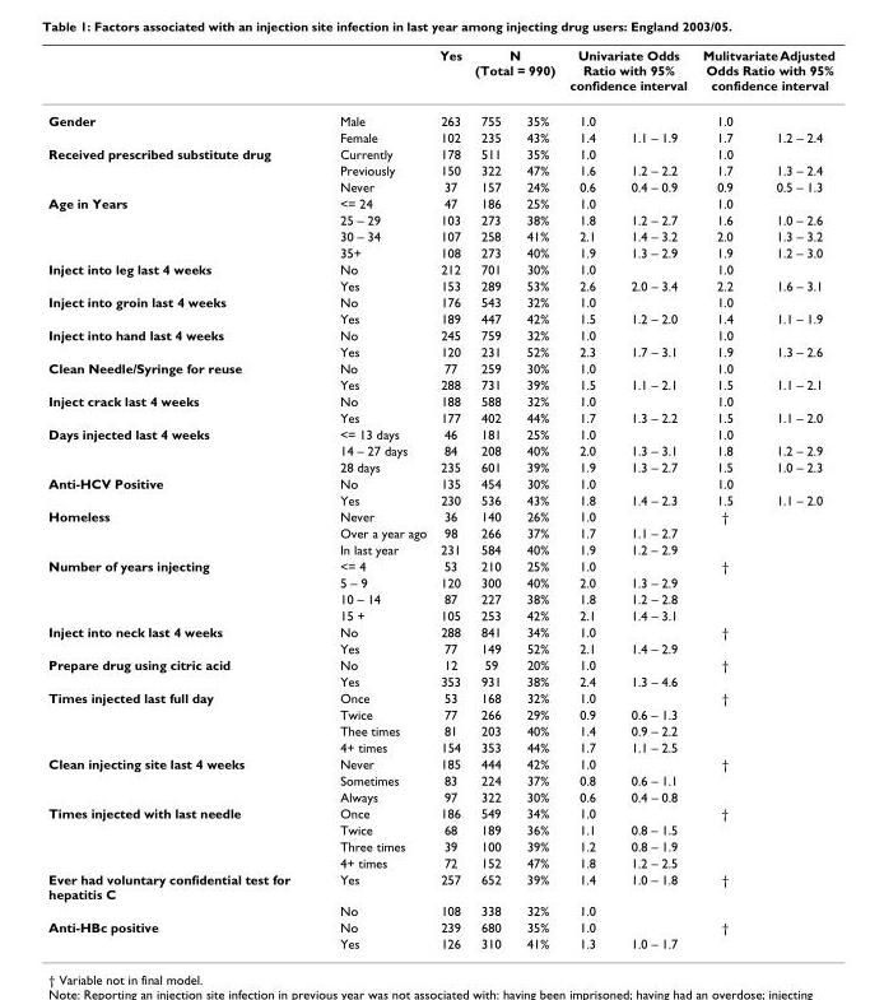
<table><thead><tr><td rowspan="2">Gender</td><td rowspan="2">Male</td><td rowspan="2">Yes 263</td><td colspan="2">N (Total = 990)</td><td colspan="2">Univariate Odds Ratio with 95% confidence interval</td><td colspan="2">Mulitvariate Adjusted Odds Ratio with 95% confidence interval</td></tr><tr><td>755</td><td>35%</td><td>1.0</td><td></td><td>1.0</td><td></td></tr></thead><tbody><tr><td></td><td>Female</td><td>102</td><td>235</td><td>43%</td><td>1.4</td><td>1.1 – 1.9</td><td>1.7</td><td>1.2 – 2.4</td></tr><tr><td rowspan="3">Received prescribed substitute drug</td><td>Currently</td><td>178</td><td>511</td><td>35%</td><td>1.0</td><td></td><td>1.0</td><td></td></tr><tr><td>Previously</td><td>150</td><td>322</td><td>47%</td><td>1.6</td><td>1.2 – 2.2</td><td>1.7</td><td>1.3 – 2.4</td></tr><tr><td>Never</td><td>37</td><td>157</td><td>24%</td><td>0.6</td><td>0.4 – 0.9</td><td>0.9</td><td>0.5 – 1.3</td></tr><tr><td rowspan="4">Age in Years</td><td>&lt;= 24</td><td>47</td><td>186</td><td>25%</td><td>1.0</td><td></td><td>1.0</td><td></td></tr><tr><td>25 – 29</td><td>103</td><td>273</td><td>38%</td><td>1.8</td><td>1.2 – 2.7</td><td>1.6</td><td>1.0 – 2.6</td></tr><tr><td>30 – 34</td><td>107</td><td>258</td><td>41%</td><td>2.1</td><td>1.4 – 3.2</td><td>2.0</td><td>1.3 – 3.2</td></tr><tr><td>35+</td><td>108</td><td>273</td><td>40%</td><td>1.9</td><td>1.3 – 2.9</td><td>1.9</td><td>1.2 – 3.0</td></tr><tr><td rowspan="2">Inject into leg last 4 weeks</td><td>No</td><td>212</td><td>701</td><td>30%</td><td>1.0</td><td></td><td>1.0</td><td></td></tr><tr><td>Yes</td><td>153</td><td>289</td><td>53%</td><td>2.6</td><td>2.0 – 3.4</td><td>2.2</td><td>1.6 – 3.1</td></tr><tr><td rowspan="2">Inject into groin last 4 weeks</td><td>No</td><td>176</td><td>543</td><td>32%</td><td>1.0</td><td></td><td>1.0</td><td></td></tr><tr><td>Yes</td><td>189</td><td>447</td><td>42%</td><td>1.5</td><td>1.2 – 2.0</td><td>1.4</td><td>1.1 – 1.9</td></tr><tr><td rowspan="2">Inject into hand last 4 weeks</td><td>No</td><td>245</td><td>759</td><td>32%</td><td>1.0</td><td></td><td>1.0</td><td></td></tr><tr><td>Yes</td><td>120</td><td>231</td><td>52%</td><td>2.3</td><td>1.7 – 3.1</td><td>1.9</td><td>1.3 – 2.6</td></tr><tr><td rowspan="2">Clean Needle/Syringe for reuse</td><td>No</td><td>77</td><td>259</td><td>30%</td><td>1.0</td><td></td><td>1.0</td><td></td></tr><tr><td>Yes</td><td>288</td><td>731</td><td>39%</td><td>1.5</td><td>1.1 – 2.1</td><td>1.5</td><td>1.1 – 2.1</td></tr><tr><td rowspan="2">Inject crack last 4 weeks</td><td>No</td><td>188</td><td>588</td><td>32%</td><td>1.0</td><td></td><td>1.0</td><td></td></tr><tr><td>Yes</td><td>177</td><td>402</td><td>44%</td><td>1.7</td><td>1.3 – 2.2</td><td>1.5</td><td>1.1 – 2.0</td></tr><tr><td rowspan="3">Days injected last 4 weeks</td><td>&lt;= 13 days</td><td>46</td><td>181</td><td>25%</td><td>1.0</td><td></td><td>1.0</td><td></td></tr><tr><td>14 – 27 days</td><td>84</td><td>208</td><td>40%</td><td>2.0</td><td>1.3 – 3.1</td><td>1.8</td><td>1.2 – 2.9</td></tr><tr><td>28 days</td><td>235</td><td>601</td><td>39%</td><td>1.9</td><td>1.3 – 2.7</td><td>1.5</td><td>1.0 – 2.3</td></tr><tr><td rowspan="2">Anti-HCV Positive</td><td>No</td><td>135</td><td>454</td><td>30%</td><td>1.0</td><td></td><td>1.0</td><td></td></tr><tr><td>Yes</td><td>230</td><td>536</td><td>43%</td><td>1.8</td><td>1.4 – 2.3</td><td>1.5</td><td>1.1 – 2.0</td></tr><tr><td rowspan="3">Homeless</td><td>Never</td><td>36</td><td>140</td><td>26%</td><td>1.0</td><td></td><td>†</td><td></td></tr><tr><td>Over a year ago</td><td>98</td><td>266</td><td>37%</td><td>1.7</td><td>1.1 – 2.7</td><td></td><td></td></tr><tr><td>In last year</td><td>231</td><td>584</td><td>40%</td><td>1.9</td><td>1.2 – 2.9</td><td></td><td></td></tr><tr><td rowspan="4">Number of years injecting</td><td>&lt;= 4</td><td>53</td><td>210</td><td>25%</td><td>1.0</td><td></td><td>†</td><td></td></tr><tr><td>5 – 9</td><td>120</td><td>300</td><td>40%</td><td>2.0</td><td>1.3 – 2.9</td><td></td><td></td></tr><tr><td>10 – 14</td><td>87</td><td>227</td><td>38%</td><td>1.8</td><td>1.2 – 2.8</td><td></td><td></td></tr><tr><td>15 +</td><td>105</td><td>253</td><td>42%</td><td>2.1</td><td>1.4 – 3.1</td><td></td><td></td></tr><tr><td rowspan="2">Inject into neck last 4 weeks</td><td>No</td><td>288</td><td>841</td><td>34%</td><td>1.0</td><td></td><td>†</td><td></td></tr><tr><td>Yes</td><td>77</td><td>149</td><td>52%</td><td>2.1</td><td>1.4 – 2.9</td><td></td><td></td></tr><tr><td rowspan="2">Prepare drug using citric acid</td><td>No</td><td>12</td><td>59</td><td>20%</td><td>1.0</td><td></td><td>†</td><td></td></tr><tr><td>Yes</td><td>353</td><td>931</td><td>38%</td><td>2.4</td><td>1.3 – 4.6</td><td></td><td></td></tr><tr><td rowspan="4">Times injected last full day</td><td>Once</td><td>53</td><td>168</td><td>32%</td><td>1.0</td><td></td><td>†</td><td></td></tr><tr><td>Twice</td><td>77</td><td>266</td><td>29%</td><td>0.9</td><td>0.6 – 1.3</td><td></td><td></td></tr><tr><td>Thee times</td><td>81</td><td>203</td><td>40%</td><td>1.4</td><td>0.9 – 2.2</td><td></td><td></td></tr><tr><td>4+ times</td><td>154</td><td>353</td><td>44%</td><td>1.7</td><td>1.1 – 2.5</td><td></td><td></td></tr><tr><td rowspan="3">Clean injecting site last 4 weeks</td><td>Never</td><td>185</td><td>444</td><td>42%</td><td>1.0</td><td></td><td>†</td><td></td></tr><tr><td>Sometimes</td><td>83</td><td>224</td><td>37%</td><td>0.8</td><td>0.6 – 1.1</td><td></td><td></td></tr><tr><td>Always</td><td>97</td><td>322</td><td>30%</td><td>0.6</td><td>0.4 – 0.8</td><td></td><td></td></tr><tr><td rowspan="4">Times injected with last needle</td><td>Once</td><td>186</td><td>549</td><td>34%</td><td>1.0</td><td></td><td>†</td><td></td></tr><tr><td>Twice</td><td>68</td><td>189</td><td>36%</td><td>1.1</td><td>0.8 – 1.5</td><td></td><td></td></tr><tr><td>Three times</td><td>39</td><td>100</td><td>39%</td><td>1.2</td><td>0.8 – 1.9</td><td></td><td></td></tr><tr><td>4+ times</td><td>72</td><td>152</td><td>47%</td><td>1.8</td><td>1.2 – 2.5</td><td></td><td></td></tr><tr><td rowspan="2">Ever had voluntary confidential test for hepatitis C</td><td>Yes</td><td>257</td><td>652</td><td>39%</td><td>1.4</td><td>1.0 – 1.8</td><td>†</td><td></td></tr><tr><td>No</td><td>108</td><td>338</td><td>32%</td><td>1.0</td><td></td><td></td><td></td></tr><tr><td rowspan="2">Anti-HBc positive</td><td>No</td><td>239</td><td>680</td><td>35%</td><td>1.0</td><td></td><td>†</td><td></td></tr><tr><td>Yes</td><td>126</td><td>310</td><td>41%</td><td>1.3</td><td>1.0 – 1.7</td><td></td><td></td></tr></tbody></table>